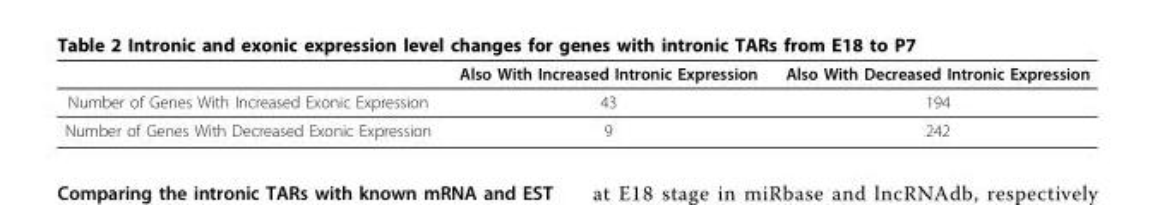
<table><thead><tr><td></td><td>Also With Increased Intronic Expression</td><td>Also With Decreased Intronic Expression</td></tr></thead><tbody><tr><td>Number of Genes With Increased Exonic Expression</td><td>43</td><td>194</td></tr><tr><td>Number of Genes With Decreased Exonic Expression</td><td>9</td><td>242</td></tr></tbody></table>